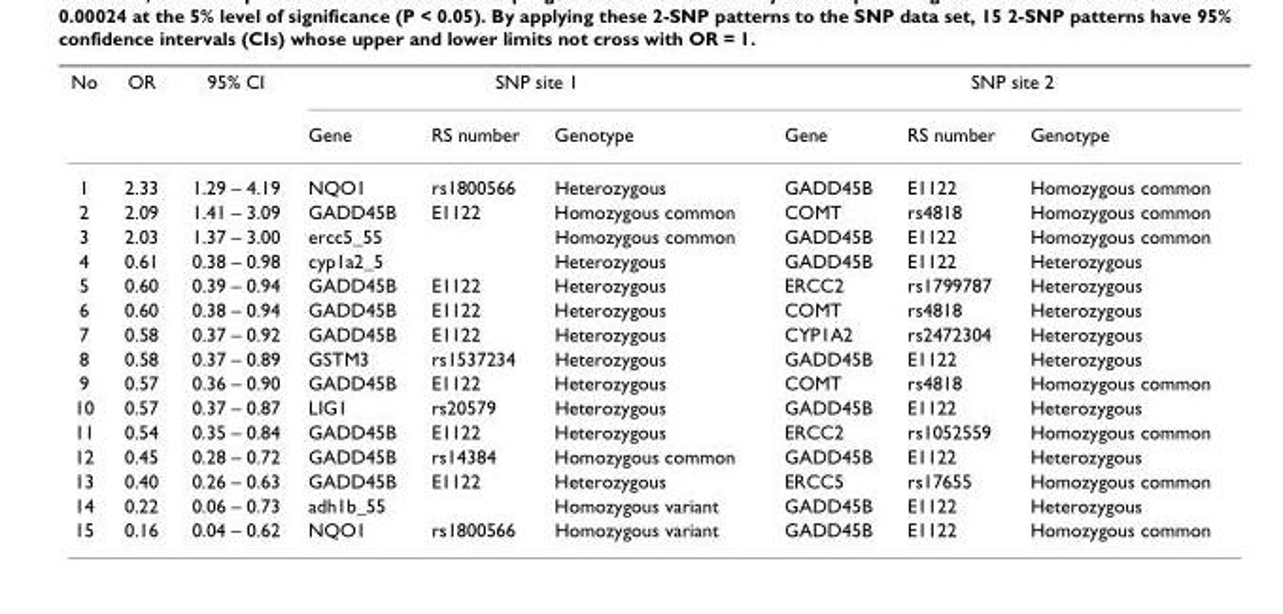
<table><thead><tr><td rowspan="2">No</td><td rowspan="2">OR</td><td rowspan="2">95% CI</td><td colspan="3">SNP site 1</td><td colspan="3">SNP site 2</td></tr><tr><td>Gene</td><td>RS number</td><td>Genotype</td><td>Gene</td><td>RS number</td><td>Genotype</td></tr></thead><tbody><tr><td>1</td><td>2.33</td><td>1.29 – 4.19</td><td>NQO1</td><td>rs1800566</td><td>Heterozygous</td><td>GADD45B</td><td>E1122</td><td>Homozygous common</td></tr><tr><td>2</td><td>2.09</td><td>1.41 – 3.09</td><td>GADD45B</td><td>E1122</td><td>Homozygous common</td><td>COMT</td><td>rs4818</td><td>Homozygous common</td></tr><tr><td>3</td><td>2.03</td><td>1.37 – 3.00</td><td>ercc5_55</td><td></td><td>Homozygous common</td><td>GADD45B</td><td>E1122</td><td>Homozygous common</td></tr><tr><td>4</td><td>0.61</td><td>0.38 – 0.98</td><td>cyp1a2_5</td><td></td><td>Heterozygous</td><td>GADD45B</td><td>E1122</td><td>Heterozygous</td></tr><tr><td>5</td><td>0.60</td><td>0.39 – 0.94</td><td>GADD45B</td><td>E1122</td><td>Heterozygous</td><td>ERCC2</td><td>rs1799787</td><td>Heterozygous</td></tr><tr><td>6</td><td>0.60</td><td>0.38 – 0.94</td><td>GADD45B</td><td>E1122</td><td>Heterozygous</td><td>COMT</td><td>rs4818</td><td>Heterozygous</td></tr><tr><td>7</td><td>0.58</td><td>0.37 – 0.92</td><td>GADD45B</td><td>E1122</td><td>Heterozygous</td><td>CYP1A2</td><td>rs2472304</td><td>Heterozygous</td></tr><tr><td>8</td><td>0.58</td><td>0.37 – 0.89</td><td>GSTM3</td><td>rs1537234</td><td>Heterozygous</td><td>GADD45B</td><td>E1122</td><td>Heterozygous</td></tr><tr><td>9</td><td>0.57</td><td>0.36 – 0.90</td><td>GADD45B</td><td>E1122</td><td>Heterozygous</td><td>COMT</td><td>rs4818</td><td>Homozygous common</td></tr><tr><td>10</td><td>0.57</td><td>0.37 – 0.87</td><td>LIG1</td><td>rs20579</td><td>Heterozygous</td><td>GADD45B</td><td>E1122</td><td>Heterozygous</td></tr><tr><td>11</td><td>0.54</td><td>0.35 – 0.84</td><td>GADD45B</td><td>E1122</td><td>Heterozygous</td><td>ERCC2</td><td>rs1052559</td><td>Homozygous common</td></tr><tr><td>12</td><td>0.45</td><td>0.28 – 0.72</td><td>GADD45B</td><td>rs14384</td><td>Homozygous common</td><td>GADD45B</td><td>E1122</td><td>Heterozygous</td></tr><tr><td>13</td><td>0.40</td><td>0.26 – 0.63</td><td>GADD45B</td><td>E1122</td><td>Heterozygous</td><td>ERCC5</td><td>rs17655</td><td>Homozygous common</td></tr><tr><td>14</td><td>0.22</td><td>0.06 – 0.73</td><td>adh1b_55</td><td></td><td>Homozygous variant</td><td>GADD45B</td><td>E1122</td><td>Heterozygous</td></tr><tr><td>15</td><td>0.16</td><td>0.04 – 0.62</td><td>NQO1</td><td>rs1800566</td><td>Homozygous variant</td><td>GADD45B</td><td>E1122</td><td>Homozygous common</td></tr></tbody></table>